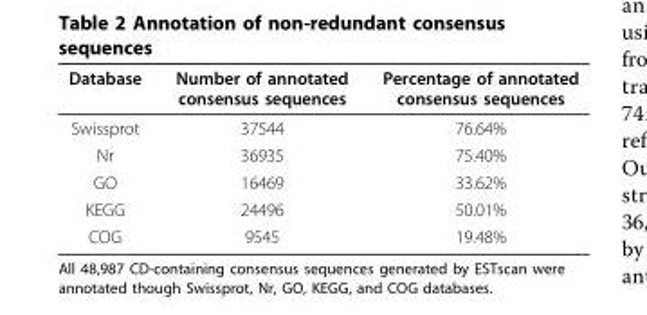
<table><thead><tr><td>Database</td><td>Number of annotated consensus sequences</td><td>Percentage of annotated consensus sequences</td></tr></thead><tbody><tr><td>Swissprot</td><td>37544</td><td>76.64%</td></tr><tr><td>Nr</td><td>36935</td><td>75.40%</td></tr><tr><td>GO</td><td>16469</td><td>33.62%</td></tr><tr><td>KEGG</td><td>24496</td><td>50.01%</td></tr><tr><td>COG</td><td>9545</td><td>19.48%</td></tr></tbody></table>